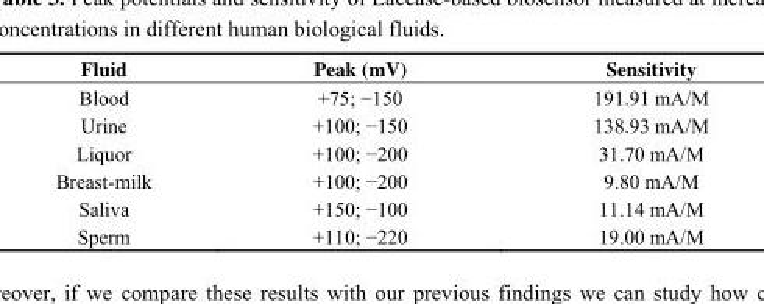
<table><thead><tr><td>Fluid</td><td>Peak (mV)</td><td>Sensitivity</td></tr></thead><tbody><tr><td>Blood</td><td>+75; −150</td><td>191.91 mA/M</td></tr><tr><td>Urine</td><td>+100; −150</td><td>138.93 mA/M</td></tr><tr><td>Liquor</td><td>+100; −200</td><td>31.70 mA/M</td></tr><tr><td>Breast-milk</td><td>+100; −200</td><td>9.80 mA/M</td></tr><tr><td>Saliva</td><td>+150; −100</td><td>11.14 mA/M</td></tr><tr><td>Sperm</td><td>+110; −220</td><td>19.00 mA/M</td></tr></tbody></table>